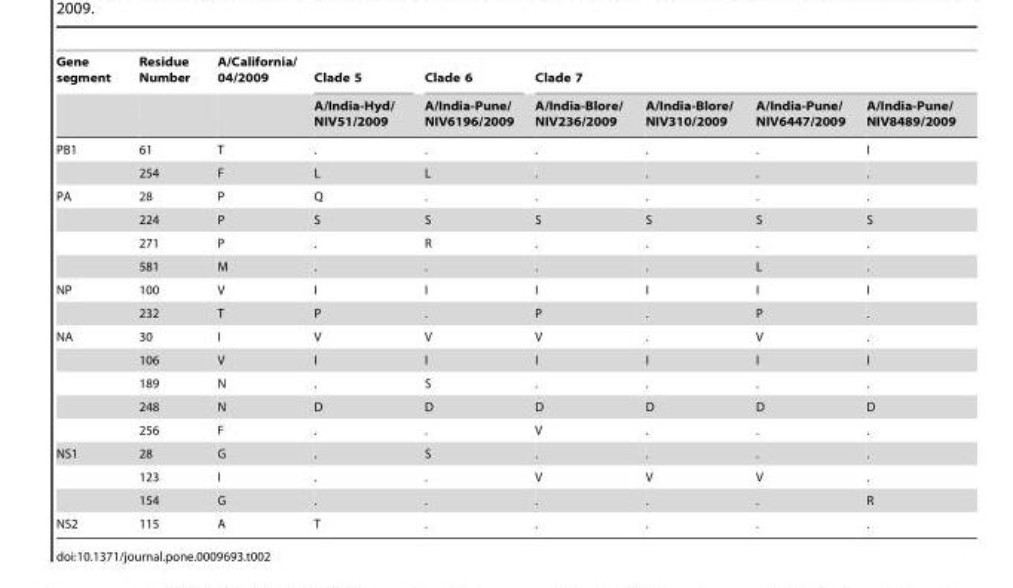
<table><thead><tr><td rowspan="2">Gene segment</td><td rowspan="2">Residue Number</td><td rowspan="2">A/California/ 04/2009</td><td rowspan="2">Clade 5 A/India-Hyd/ NIV51/2009</td><td rowspan="2">Clade 6 A/India-Pune/ NIV6196/2009</td><td colspan="4">Clade 7</td></tr><tr><td>A/India-Blore/ NIV236/2009</td><td>A/India-Blore/ NIV310/2009</td><td>A/India-Pune/ NIV6447/2009</td><td>A/India-Pune/ NIV8489/2009</td></tr></thead><tbody><tr><td rowspan="2">PB1</td><td>61</td><td>T</td><td>.</td><td>.</td><td>.</td><td>.</td><td>.</td><td>I</td></tr><tr><td>254</td><td>F</td><td>L</td><td>L</td><td>.</td><td>.</td><td>.</td><td>.</td></tr><tr><td rowspan="4">PA</td><td>28</td><td>P</td><td>Q</td><td>.</td><td>.</td><td>.</td><td>.</td><td>.</td></tr><tr><td>224</td><td>P</td><td>S</td><td>S</td><td>S</td><td>S</td><td>S</td><td>S</td></tr><tr><td>271</td><td>P</td><td>.</td><td>R</td><td>.</td><td>.</td><td>.</td><td>.</td></tr><tr><td>581</td><td>M</td><td>.</td><td>.</td><td>.</td><td>.</td><td>L</td><td>.</td></tr><tr><td rowspan="2">NP</td><td>100</td><td>V</td><td>I</td><td>I</td><td>I</td><td>I</td><td>I</td><td>I</td></tr><tr><td>232</td><td>T</td><td>P</td><td>.</td><td>P</td><td>.</td><td>P</td><td>.</td></tr><tr><td rowspan="5">NA</td><td>30</td><td>I</td><td>V</td><td>V</td><td>V</td><td>.</td><td>V</td><td>.</td></tr><tr><td>106</td><td>V</td><td>I</td><td>I</td><td>I</td><td>I</td><td>I</td><td>I</td></tr><tr><td>189</td><td>N</td><td>.</td><td>S</td><td>.</td><td>.</td><td>.</td><td>.</td></tr><tr><td>248</td><td>N</td><td>D</td><td>D</td><td>D</td><td>D</td><td>D</td><td>D</td></tr><tr><td>256</td><td>F</td><td>.</td><td>.</td><td>V</td><td>.</td><td>.</td><td>.</td></tr><tr><td rowspan="3">NS1</td><td>28</td><td>G</td><td>.</td><td>S</td><td>.</td><td>.</td><td>.</td><td>.</td></tr><tr><td>123</td><td>I</td><td>.</td><td>.</td><td>V</td><td>V</td><td>V</td><td>.</td></tr><tr><td>154</td><td>G</td><td>.</td><td>.</td><td>.</td><td>.</td><td>.</td><td>R</td></tr><tr><td>NS2</td><td>115</td><td>A</td><td>T</td><td>.</td><td>.</td><td>.</td><td>.</td><td>.</td></tr></tbody></table>